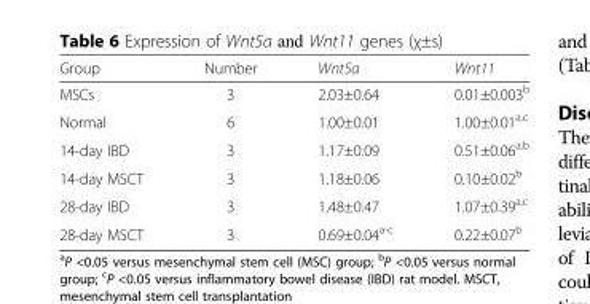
<table><thead><tr><td>Group</td><td>Number</td><td>Wnt5a</td><td>Wnt11</td></tr></thead><tbody><tr><td>MSCs</td><td>3</td><td>2.03±0.64</td><td>0.01±0.003<sup>b</sup></td></tr><tr><td>Normal</td><td>6</td><td>1.00±0.01</td><td>1.00±0.01<sup>a,c</sup></td></tr><tr><td>14-day IBD</td><td>3</td><td>1.17±0.09</td><td>0.51±0.06<sup>a,b</sup></td></tr><tr><td>14-day MSCT</td><td>3</td><td>1.18±0.06</td><td>0.10±0.02<sup>b</sup></td></tr><tr><td>28-day IBD</td><td>3</td><td>1.48±0.47</td><td>1.07±0.39<sup>a,c</sup></td></tr><tr><td>28-day MSCT</td><td>3</td><td>0.69±0.04<sup>a-c</sup></td><td>0.22±0.07<sup>b</sup></td></tr></tbody></table>